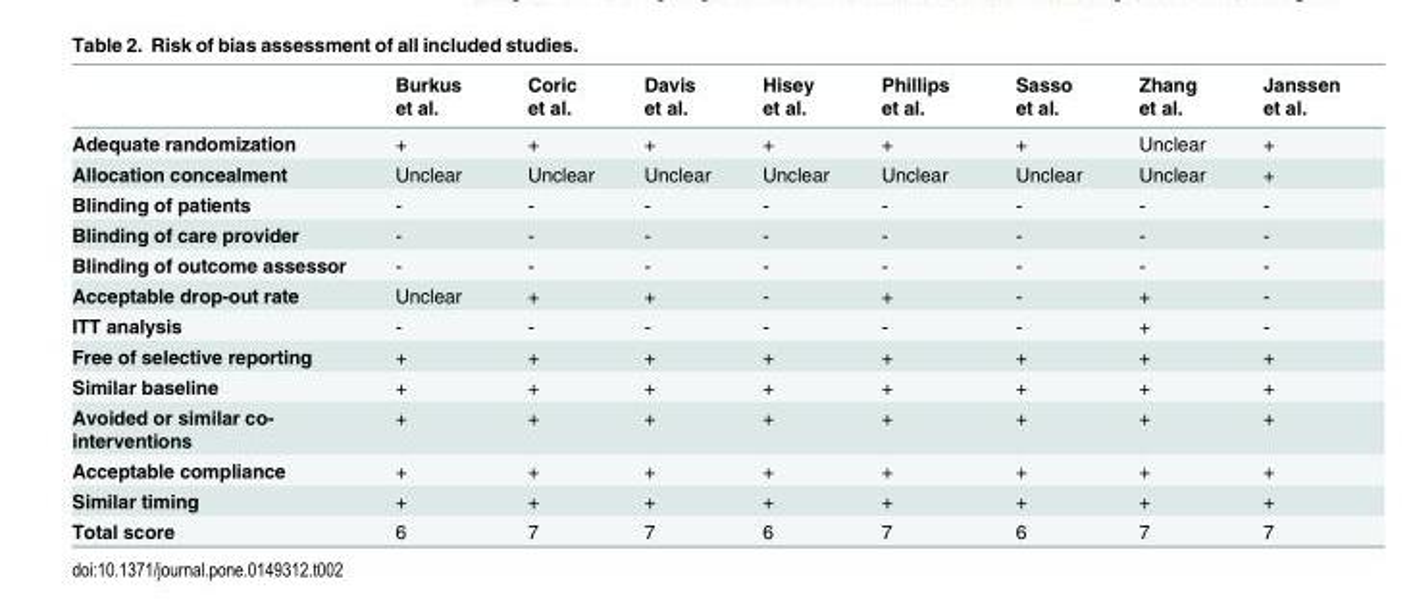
<table><thead><tr><td></td><td>Burkus et al.</td><td>Coric et al.</td><td>Davis et al.</td><td>Hisey et al.</td><td>Phillips et al.</td><td>Sasso et al.</td><td>Zhang et al.</td><td>Janssen et al.</td></tr></thead><tbody><tr><td>Adequate randomization</td><td>+</td><td>+</td><td>+</td><td>+</td><td>+</td><td>+</td><td>Unclear</td><td>+</td></tr><tr><td>Allocation concealment</td><td>Unclear</td><td>Unclear</td><td>Unclear</td><td>Unclear</td><td>Unclear</td><td>Unclear</td><td>Unclear</td><td>+</td></tr><tr><td>Blinding of patients</td><td>-</td><td>-</td><td>-</td><td>-</td><td>-</td><td>-</td><td>-</td><td>-</td></tr><tr><td>Blinding of care provider</td><td>-</td><td>-</td><td>-</td><td>-</td><td>-</td><td>-</td><td>-</td><td>-</td></tr><tr><td>Blinding of outcome assessor</td><td>-</td><td>-</td><td>-</td><td>-</td><td>-</td><td>-</td><td>-</td><td>-</td></tr><tr><td>Acceptable drop-out rate</td><td>Unclear</td><td>+</td><td>+</td><td>-</td><td>+</td><td>-</td><td>+</td><td>-</td></tr><tr><td>ITT analysis</td><td>-</td><td>-</td><td>-</td><td>-</td><td>-</td><td>-</td><td>+</td><td>-</td></tr><tr><td>Free of selective reporting</td><td>+</td><td>+</td><td>+</td><td>+</td><td>+</td><td>+</td><td>+</td><td>+</td></tr><tr><td>Similar baseline</td><td>+</td><td>+</td><td>+</td><td>+</td><td>+</td><td>+</td><td>+</td><td>+</td></tr><tr><td>Avoided or similar co- interventions</td><td>+</td><td>+</td><td>+</td><td>+</td><td>+</td><td>+</td><td>+</td><td>+</td></tr><tr><td>Acceptable compliance</td><td>+</td><td>+</td><td>+</td><td>+</td><td>+</td><td>+</td><td>+</td><td>+</td></tr><tr><td>Similar timing</td><td>+</td><td>+</td><td>+</td><td>+</td><td>+</td><td>+</td><td>+</td><td>+</td></tr><tr><td>Total score</td><td>6</td><td>7</td><td>7</td><td>6</td><td>7</td><td>6</td><td>7</td><td>7</td></tr></tbody></table>